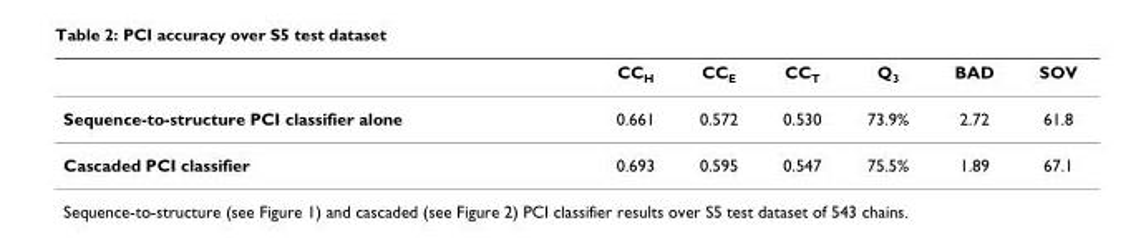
<table><thead><tr><td></td><td>CC<sub>H</sub></td><td>CC<sub>E</sub></td><td>CC<sub>T</sub></td><td>Q<sub>3</sub></td><td>BAD</td><td>SOV</td></tr></thead><tbody><tr><td>Sequence-to-structure PCI classifier alone</td><td>0.661</td><td>0.572</td><td>0.530</td><td>73.9%</td><td>2.72</td><td>61.8</td></tr><tr><td>Cascaded PCI classifier</td><td>0.693</td><td>0.595</td><td>0.547</td><td>75.5%</td><td>1.89</td><td>67.1</td></tr></tbody></table>